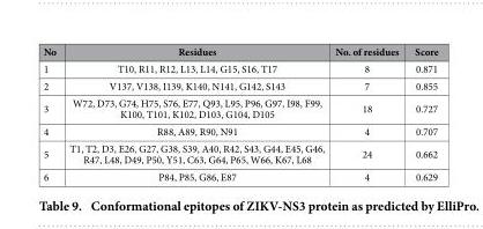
<table><thead><tr><td>No</td><td>Residues</td><td>No. of residues</td><td>Score</td></tr></thead><tbody><tr><td>1</td><td>T10, R11, R12, L13, L14, G15, S16, T17</td><td>8</td><td>0.871</td></tr><tr><td>2</td><td>V137, V138, I139, K140, N141, G142, S143</td><td>7</td><td>0.855</td></tr><tr><td>3</td><td>W72, D73, G74, H75, S76, E77, Q93, L95, P96, G97, I98, F99, K100, T101, K102, D103, G104, D105</td><td>18</td><td>0.727</td></tr><tr><td>4</td><td>R88, A89, R90, N91</td><td>4</td><td>0.707</td></tr><tr><td>5</td><td>T1, T2, D3, E26, G27, G38, S39, A40, R42, S43, G44, E45, G46, R47, L48, D49, P50, Y51, C63, G64, P65, W66, K67, L68</td><td>24</td><td>0.662</td></tr><tr><td>6</td><td>P84, P85, G86, E87</td><td>4</td><td>0.629</td></tr></tbody></table>